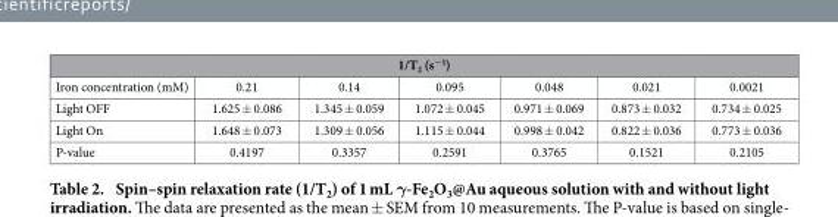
<table><thead><tr><td colspan="7">1/T<sub>2</sub> (s<sup>−1</sup>)</td></tr><tr><td>Iron concentration (mM)</td><td>0.21</td><td>0.14</td><td>0.095</td><td>0.048</td><td>0.021</td><td>0.0021</td></tr></thead><tbody><tr><td>Light OFF</td><td>1.625 ± 0.086</td><td>1.345 ± 0.059</td><td>1.072 ± 0.045</td><td>0.971 ± 0.069</td><td>0.873 ± 0.032</td><td>0.734 ± 0.025</td></tr><tr><td>Light On</td><td>1.648 ± 0.073</td><td>1.309 ± 0.056</td><td>1.115 ± 0.044</td><td>0.998 ± 0.042</td><td>0.822 ± 0.036</td><td>0.773 ± 0.036</td></tr><tr><td>P-value</td><td>0.4197</td><td>0.3357</td><td>0.2591</td><td>0.3765</td><td>0.1521</td><td>0.2105</td></tr></tbody></table>